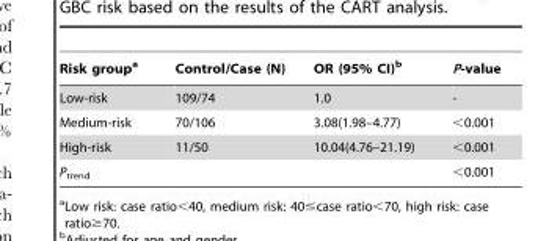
<table><thead><tr><td>Risk group<sup>a</sup></td><td>Control/Case (N)</td><td>OR (95% CI)<sup>b</sup></td><td>P-value</td></tr></thead><tbody><tr><td>Low-risk</td><td>109/74</td><td>1.0</td><td>-</td></tr><tr><td>Medium-risk</td><td>70/106</td><td>3.08(1.98–4.77)</td><td>&lt;0.001</td></tr><tr><td>High-risk</td><td>11/50</td><td>10.04(4.76–21.19)</td><td>&lt;0.001</td></tr><tr><td>P<sub>trend</sub></td><td></td><td></td><td>&lt;0.001</td></tr></tbody></table>